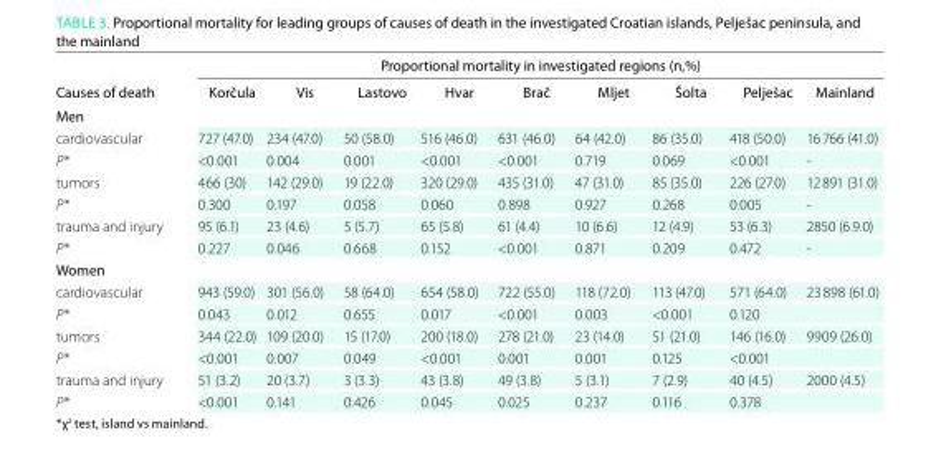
<table><thead><tr><td rowspan="2">Causes of death</td><td colspan="9">Proportional mortality in investigated regions (n,%)</td></tr><tr><td>Korčula</td><td>Vis</td><td>lastovo</td><td>hvar</td><td>brač</td><td>Mljet</td><td>Šolta</td><td>Pelješac</td><td>Mainland</td></tr></thead><tbody><tr><td colspan="10">Men</td></tr><tr><td>cardiovascular</td><td>727 (47.0)</td><td>234 (47.0)</td><td>50 (58.0)</td><td>516 (46.0)</td><td>631 (46.0)</td><td>64 (42.0)</td><td>86 (35.0)</td><td>418 (50.0)</td><td>16 766 (41.0)</td></tr><tr><td>P*</td><td>&lt;0.001</td><td>0.004</td><td>0.001</td><td>&lt;0.001</td><td>&lt;0.001</td><td>0.719</td><td>0.069</td><td>&lt;0.001</td><td>-</td></tr><tr><td>tumors</td><td>466 (30)</td><td>142 (29.0)</td><td>19 (22.0)</td><td>320 (29.0)</td><td>435 (31.0)</td><td>47 (31.0)</td><td>85 (35.0)</td><td>226 (27.0)</td><td>12 891 (31.0)</td></tr><tr><td>P*</td><td>0.300</td><td>0.197</td><td>0.058</td><td>0.060</td><td>0.898</td><td>0.927</td><td>0.268</td><td>0.005</td><td>-</td></tr><tr><td>trauma and injury</td><td>95 (6.1)</td><td>23 (4.6)</td><td>5 (5.7)</td><td>65 (5.8)</td><td>61 (4.4)</td><td>10 (6.6)</td><td>12 (4.9)</td><td>53 (6.3)</td><td>2850 (6.9.0)</td></tr><tr><td>P*</td><td>0.227</td><td>0.046</td><td>0.668</td><td>0.152</td><td>&lt;0.001</td><td>0.871</td><td>0.209</td><td>0.472</td><td>-</td></tr><tr><td colspan="10">Women</td></tr><tr><td>cardiovascular</td><td>943 (59.0)</td><td>301 (56.0)</td><td>58 (64.0)</td><td>654 (58.0)</td><td>722 (55.0)</td><td>118 (72.0)</td><td>113 (47.0)</td><td>571 (64.0)</td><td>23 898 (61.0)</td></tr><tr><td>P*</td><td>0.043</td><td>0.012</td><td>0.655</td><td>0.017</td><td>&lt;0.001</td><td>0.003</td><td>&lt;0.001</td><td>0.120</td><td></td></tr><tr><td>tumors</td><td>344 (22.0)</td><td>109 (20.0)</td><td>15 (17.0)</td><td>200 (18.0)</td><td>278 (21.0)</td><td>23 (14.0)</td><td>51 (21.0)</td><td>146 (16.0)</td><td>9909 (26.0)</td></tr><tr><td>P*</td><td>&lt;0.001</td><td>0.007</td><td>0.049</td><td>&lt;0.001</td><td>0.001</td><td>0.001</td><td>0.125</td><td>&lt;0.001</td><td></td></tr><tr><td>trauma and injury</td><td>51 (3.2)</td><td>20 (3.7)</td><td>3 (3.3)</td><td>43 (3.8)</td><td>49 (3.8)</td><td>5 (3.1)</td><td>7 (2.9)</td><td>40 (4.5)</td><td>2000 (4.5)</td></tr><tr><td>P*</td><td>&lt;0.001</td><td>0.141</td><td>0.426</td><td>0.045</td><td>0.025</td><td>0.237</td><td>0.116</td><td>0.378</td><td></td></tr></tbody></table>